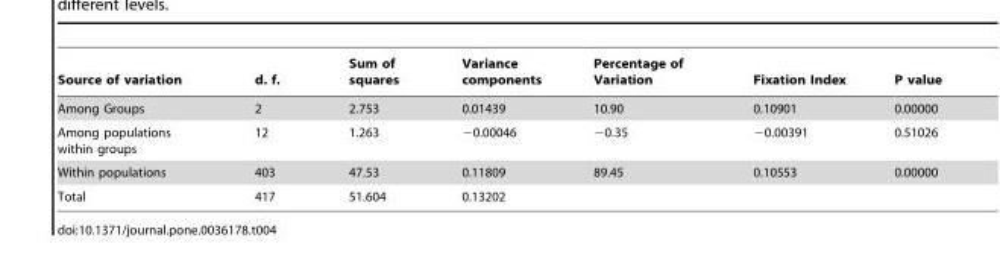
<table><thead><tr><td>Source of variation</td><td>d. f.</td><td>Sum of squares</td><td>Variance components</td><td>Percentage of Variation</td><td>Fixation Index</td><td>P value</td></tr></thead><tbody><tr><td>Among Groups</td><td>2</td><td>2.753</td><td>0.01439</td><td>10.90</td><td>0.10901</td><td>0.00000</td></tr><tr><td>Among populations within groups</td><td>12</td><td>1.263</td><td>−0.00046</td><td>−0.35</td><td>−0.00391</td><td>0.51026</td></tr><tr><td>Within populations</td><td>403</td><td>47.53</td><td>0.11809</td><td>89.45</td><td>0.10553</td><td>0.00000</td></tr><tr><td>Total</td><td>417</td><td>51.604</td><td>0.13202</td><td></td><td></td><td></td></tr></tbody></table>